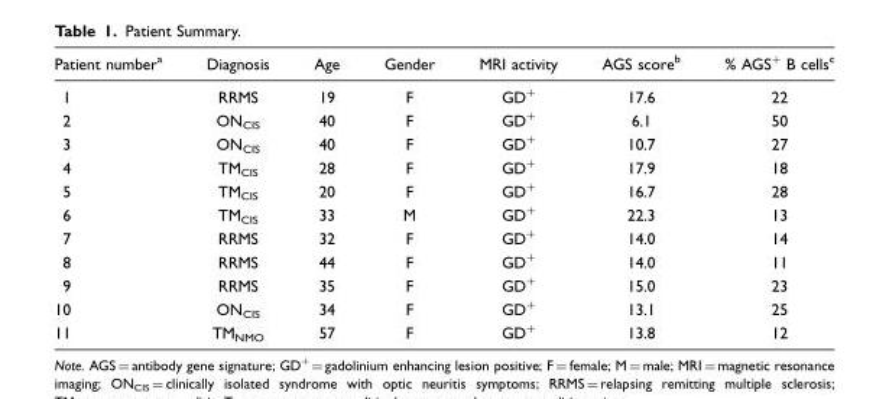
<table><thead><tr><td>Patient number<sup>a</sup></td><td>Diagnosis</td><td>Age</td><td>Gender</td><td>MRI activity</td><td>AGS score<sup>b</sup></td><td>% AGS<sup>+</sup> B cells<sup>c</sup></td></tr></thead><tbody><tr><td>1</td><td>RRMS</td><td>19</td><td>F</td><td>GD<sup>+</sup></td><td>17.6</td><td>22</td></tr><tr><td>2</td><td>ON<sub>CIS</sub></td><td>40</td><td>F</td><td>GD<sup>+</sup></td><td>6.1</td><td>50</td></tr><tr><td>3</td><td>ON<sub>CIS</sub></td><td>40</td><td>F</td><td>GD<sup>+</sup></td><td>10.7</td><td>27</td></tr><tr><td>4</td><td>TM<sub>CIS</sub></td><td>28</td><td>F</td><td>GD<sup>+</sup></td><td>17.9</td><td>18</td></tr><tr><td>5</td><td>TM<sub>CIS</sub></td><td>20</td><td>F</td><td>GD<sup>+</sup></td><td>16.7</td><td>28</td></tr><tr><td>6</td><td>TM<sub>CIS</sub></td><td>33</td><td>M</td><td>GD<sup>+</sup></td><td>22.3</td><td>13</td></tr><tr><td>7</td><td>RRMS</td><td>32</td><td>F</td><td>GD<sup>+</sup></td><td>14.0</td><td>14</td></tr><tr><td>8</td><td>RRMS</td><td>44</td><td>F</td><td>GD<sup>+</sup></td><td>14.0</td><td>11</td></tr><tr><td>9</td><td>RRMS</td><td>35</td><td>F</td><td>GD<sup>+</sup></td><td>15.0</td><td>23</td></tr><tr><td>10</td><td>ON<sub>CIS</sub></td><td>34</td><td>F</td><td>GD<sup>+</sup></td><td>13.1</td><td>25</td></tr><tr><td>11</td><td>TM<sub>NMO</sub></td><td>57</td><td>F</td><td>GD<sup>+</sup></td><td>13.8</td><td>12</td></tr></tbody></table>